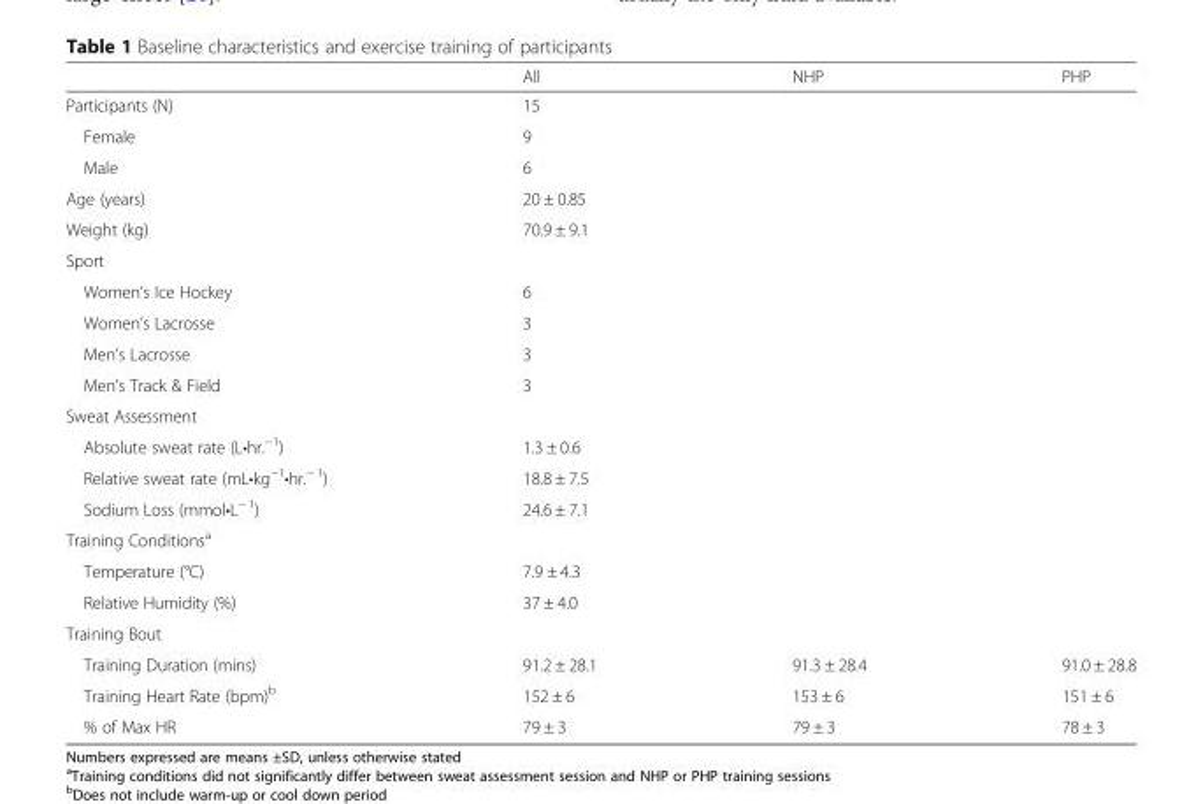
<table><thead><tr><td></td><td>All</td><td>NHP</td><td>PHP</td></tr></thead><tbody><tr><td>Participants (N)</td><td>15</td><td></td><td></td></tr><tr><td>Female</td><td>9</td><td></td><td></td></tr><tr><td>Male</td><td>6</td><td></td><td></td></tr><tr><td>Age (years)</td><td>20 ± 0.85</td><td></td><td></td></tr><tr><td>Weight (kg)</td><td>70.9 ± 9.1</td><td></td><td></td></tr><tr><td colspan="4">Sport</td></tr><tr><td>Women’s Ice Hockey</td><td>6</td><td></td><td></td></tr><tr><td>Women’s Lacrosse</td><td>3</td><td></td><td></td></tr><tr><td>Men’s Lacrosse</td><td>3</td><td></td><td></td></tr><tr><td>Men’s Track &amp; Field</td><td>3</td><td></td><td></td></tr><tr><td colspan="4">Sweat Assessment</td></tr><tr><td>Absolute sweat rate (L•hr.<sup>−1</sup>)</td><td>1.3 ± 0.6</td><td></td><td></td></tr><tr><td>Relative sweat rate (mL•kg<sup>−1</sup>•hr.<sup>− 1</sup>)</td><td>18.8 ± 7.5</td><td></td><td></td></tr><tr><td>Sodium Loss (mmol•L<sup>− 1</sup>)</td><td>24.6 ± 7.1</td><td></td><td></td></tr><tr><td colspan="4">Training Conditions<sup>a</sup></td></tr><tr><td>Temperature (°C)</td><td>7.9 ± 4.3</td><td></td><td></td></tr><tr><td>Relative Humidity (%)</td><td>37 ± 4.0</td><td></td><td></td></tr><tr><td colspan="4">Training Bout</td></tr><tr><td>Training Duration (mins)</td><td>91.2 ± 28.1</td><td>91.3 ± 28.4</td><td>91.0 ± 28.8</td></tr><tr><td>Training Heart Rate (bpm)<sup>b</sup></td><td>152 ± 6</td><td>153 ± 6</td><td>151 ± 6</td></tr><tr><td>% of Max HR</td><td>79 ± 3</td><td>79 ± 3</td><td>78 ± 3</td></tr></tbody></table>